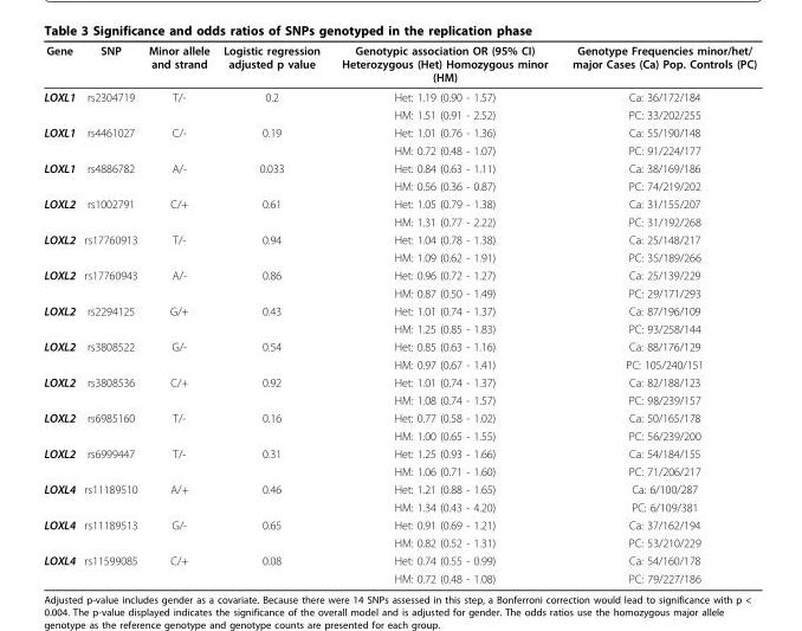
<table><thead><tr><td>Gene</td><td>SNP</td><td>Minor allele and strand</td><td>Logistic regression adjusted p value</td><td>Genotypic association OR (95% CI) Heterozygous (Het) Homozygous minor (HM)</td><td>Genotype Frequencies minor/het/ major Cases (Ca) Pop. Controls (PC)</td></tr></thead><tbody><tr><td rowspan="2">LOXL1</td><td>rs2304719</td><td>T/-</td><td>0.2</td><td>Het: 1.19 (0.90 - 1.57)</td><td>Ca: 36/172/184</td></tr><tr><td></td><td></td><td></td><td>HM: 1.51 (0.91 - 2.52)</td><td>PC: 33/202/255</td></tr><tr><td rowspan="2">LOXL1</td><td>rs4461027</td><td>C/-</td><td>0.19</td><td>Het: 1.01 (0.76 - 1.36)</td><td>Ca: 55/190/148</td></tr><tr><td></td><td></td><td></td><td>HM: 0.72 (0.48 - 1.07)</td><td>PC: 91/224/177</td></tr><tr><td rowspan="2">LOXL1</td><td>rs4886782</td><td>A/-</td><td>0.033</td><td>Het: 0.84 (0.63 - 1.11)</td><td>Ca: 38/169/186</td></tr><tr><td></td><td></td><td></td><td>HM: 0.56 (0.36 - 0.87)</td><td>PC: 74/219/202</td></tr><tr><td rowspan="2">LOXL2</td><td>rs1002791</td><td>C/+</td><td>0.61</td><td>Het: 1.05 (0.79 - 1.38)</td><td>Ca: 31/155/207</td></tr><tr><td></td><td></td><td></td><td>HM: 1.31 (0.77 - 2.22)</td><td>PC: 31/192/268</td></tr><tr><td rowspan="2">LOXL2</td><td>rs17760913</td><td>T/-</td><td>0.94</td><td>Het: 1.04 (0.78 - 1.38)</td><td>Ca: 25/148/217</td></tr><tr><td></td><td></td><td></td><td>HM: 1.09 (0.62 - 1.91)</td><td>PC: 35/189/266</td></tr><tr><td rowspan="2">LOXL2</td><td>rs17760943</td><td>A/-</td><td>0.86</td><td>Het: 0.96 (0.72 - 1.27)</td><td>Ca: 25/139/229</td></tr><tr><td></td><td></td><td></td><td>HM: 0.87 (0.50 - 1.49)</td><td>PC: 29/171/293</td></tr><tr><td rowspan="2">LOXL2</td><td>rs2294125</td><td>G/+</td><td>0.43</td><td>Het: 1.01 (0.74 - 1.37)</td><td>Ca: 87/196/109</td></tr><tr><td></td><td></td><td></td><td>HM: 1.25 (0.85 - 1.83)</td><td>PC: 93/258/144</td></tr><tr><td rowspan="2">LOXL2</td><td>rs3808522</td><td>G/-</td><td>0.54</td><td>Het: 0.85 (0.63 - 1.16)</td><td>Ca: 88/176/129</td></tr><tr><td></td><td></td><td></td><td>HM: 0.97 (0.67 - 1.41)</td><td>PC: 105/240/151</td></tr><tr><td rowspan="2">LOXL2</td><td>rs3808536</td><td>C/+</td><td>0.92</td><td>Het: 1.01 (0.74 - 1.37)</td><td>Ca: 82/188/123</td></tr><tr><td></td><td></td><td></td><td>HM: 1.08 (0.74 - 1.57)</td><td>PC: 98/239/157</td></tr><tr><td rowspan="2">LOXL2</td><td>rs6985160</td><td>T/-</td><td>0.16</td><td>Het: 0.77 (0.58 - 1.02)</td><td>Ca: 50/165/178</td></tr><tr><td></td><td></td><td></td><td>HM: 1.00 (0.65 - 1.55)</td><td>PC: 56/239/200</td></tr><tr><td rowspan="2">LOXL2</td><td>rs6999447</td><td>T/-</td><td>0.31</td><td>Het: 1.25 (0.93 - 1.66)</td><td>Ca: 54/184/155</td></tr><tr><td></td><td></td><td></td><td>HM: 1.06 (0.71 - 1.60)</td><td>PC: 71/206/217</td></tr><tr><td rowspan="2">LOXL4</td><td>rs11189510</td><td>A/+</td><td>0.46</td><td>Het: 1.21 (0.88 - 1.65)</td><td>Ca: 6/100/287</td></tr><tr><td></td><td></td><td></td><td>HM: 1.34 (0.43 - 4.20)</td><td>PC: 6/109/381</td></tr><tr><td rowspan="2">LOXL4</td><td>rs11189513</td><td>G/-</td><td>0.65</td><td>Het: 0.91 (0.69 - 1.21)</td><td>Ca: 37/162/194</td></tr><tr><td></td><td></td><td></td><td>HM: 0.82 (0.52 - 1.31)</td><td>PC: 53/210/229</td></tr><tr><td rowspan="2">LOXL4</td><td>rs11599085</td><td>C/+</td><td>0.08</td><td>Het: 0.74 (0.55 - 0.99)</td><td>Ca: 54/160/178</td></tr><tr><td></td><td></td><td></td><td>HM: 0.72 (0.48 - 1.08)</td><td>PC: 79/227/186</td></tr></tbody></table>